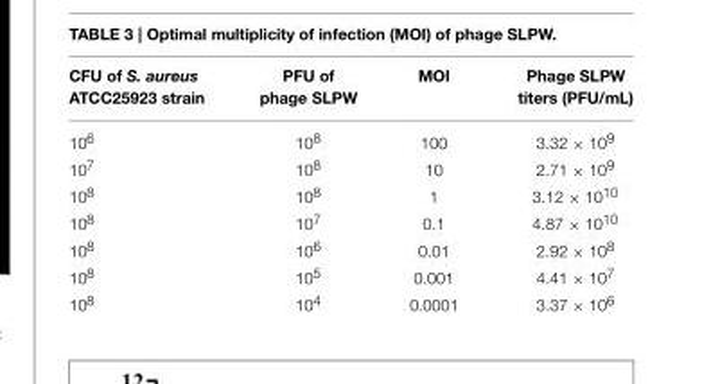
<table><thead><tr><td>CFU of S. aureus ATCC25923 strain</td><td>PFU of phage SLPW</td><td>MOI</td><td>Phage SLPW titers (PFU/mL)</td></tr></thead><tbody><tr><td>10<sup>6</sup></td><td>10<sup>8</sup></td><td>100</td><td>3.32 × 10<sup>9</sup></td></tr><tr><td>10<sup>7</sup></td><td>10<sup>8</sup></td><td>10</td><td>2.71 × 10<sup>9</sup></td></tr><tr><td>10<sup>8</sup></td><td>10<sup>8</sup></td><td>1</td><td>3.12 × 10<sup>10</sup></td></tr><tr><td>10<sup>8</sup></td><td>10<sup>7</sup></td><td>0.1</td><td>4.87 × 10<sup>10</sup></td></tr><tr><td>10<sup>8</sup></td><td>10<sup>6</sup></td><td>0.01</td><td>2.92 × 10<sup>8</sup></td></tr><tr><td>10<sup>8</sup></td><td>10<sup>5</sup></td><td>0.001</td><td>4.41 × 10<sup>7</sup></td></tr><tr><td>10<sup>8</sup></td><td>10<sup>4</sup></td><td>0.0001</td><td>3.37 × 10<sup>6</sup></td></tr></tbody></table>